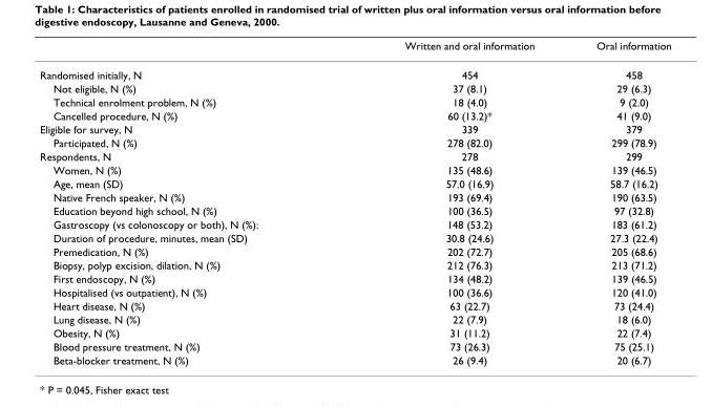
<table><thead><tr><td></td><td>Written and oral information</td><td>Oral information</td></tr></thead><tbody><tr><td>Randomised initially, N</td><td>454</td><td>458</td></tr><tr><td>Not eligible, N (%)</td><td>37 (8.1)</td><td>29 (6.3)</td></tr><tr><td>Technical enrolment problem, N (%)</td><td>18 (4.0)</td><td>9 (2.0)</td></tr><tr><td>Cancelled procedure, N (%)</td><td>60 (13.2)*</td><td>41 (9.0)</td></tr><tr><td>Eligible for survey, N</td><td>339</td><td>379</td></tr><tr><td>Participated, N (%)</td><td>278 (82.0)</td><td>299 (78.9)</td></tr><tr><td>Respondents, N</td><td>278</td><td>299</td></tr><tr><td>Women, N (%)</td><td>135 (48.6)</td><td>139 (46.5)</td></tr><tr><td>Age, mean (SD)</td><td>57.0 (16.9)</td><td>58.7 (16.2)</td></tr><tr><td>Native French speaker, N (%)</td><td>193 (69.4)</td><td>190 (63.5)</td></tr><tr><td>Education beyond high school, N (%)</td><td>100 (36.5)</td><td>97 (32.8)</td></tr><tr><td>Gastroscopy (vs colonoscopy or both), N (%):</td><td>148 (53.2)</td><td>183 (61.2)</td></tr><tr><td>Duration of procedure, minutes, mean (SD)</td><td>30.8 (24.6)</td><td>27.3 (22.4)</td></tr><tr><td>Premedication, N (%)</td><td>202 (72.7)</td><td>205 (68.6)</td></tr><tr><td>Biopsy, polyp excision, dilation, N (%)</td><td>212 (76.3)</td><td>213 (71.2)</td></tr><tr><td>First endoscopy, N (%)</td><td>134 (48.2)</td><td>139 (46.5)</td></tr><tr><td>Hospitalised (vs outpatient), N (%)</td><td>100 (36.6)</td><td>120 (41.0)</td></tr><tr><td>Heart disease, N (%)</td><td>63 (22.7)</td><td>73 (24.4)</td></tr><tr><td>Lung disease, N (%)</td><td>22 (7.9)</td><td>18 (6.0)</td></tr><tr><td>Obesity, N (%)</td><td>31 (11.2)</td><td>22 (7.4)</td></tr><tr><td>Blood pressure treatment, N (%)</td><td>73 (26.3)</td><td>75 (25.1)</td></tr><tr><td>Beta-blocker treatment, N (%)</td><td>26 (9.4)</td><td>20 (6.7)</td></tr></tbody></table>